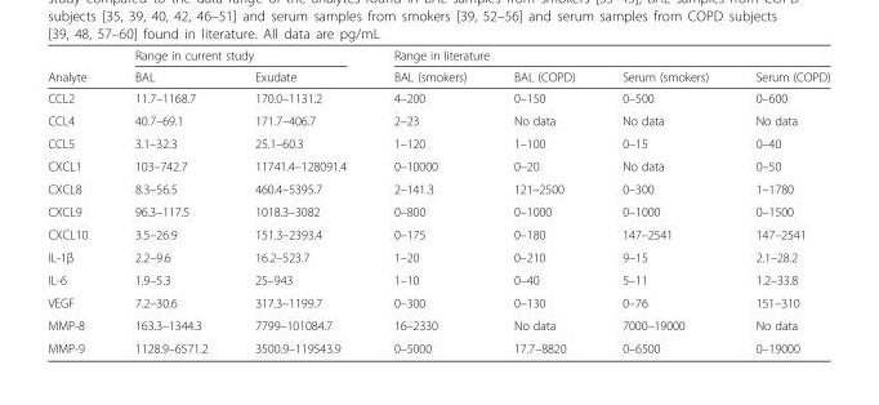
<table><thead><tr><td rowspan="2">Analyte</td><td colspan="2">Range in current study</td><td colspan="4">Range in literature</td></tr><tr><td>BAL</td><td>Exudate</td><td>BAL (smokers)</td><td>BAL (COPD)</td><td>Serum (smokers)</td><td>Serum (COPD)</td></tr></thead><tbody><tr><td>CCL2</td><td>11.7–1168.7</td><td>170.0–1131.2</td><td>4–200</td><td>0–150</td><td>0–500</td><td>0–600</td></tr><tr><td>CCL4</td><td>40.7–69.1</td><td>171.7–406.7</td><td>2–23</td><td>No data</td><td>No data</td><td>No data</td></tr><tr><td>CCL5</td><td>3.1–32.3</td><td>25.1–60.3</td><td>1–120</td><td>1–100</td><td>0–15</td><td>0–40</td></tr><tr><td>CXCL1</td><td>103–742.7</td><td>11741.4–128091.4</td><td>0–10000</td><td>0–20</td><td>No data</td><td>0–50</td></tr><tr><td>CXCL8</td><td>8.3–56.5</td><td>460.4–5395.7</td><td>2–141.3</td><td>121–2500</td><td>0–300</td><td>1–1780</td></tr><tr><td>CXCL9</td><td>96.3–117.5</td><td>1018.3–3082</td><td>0–800</td><td>0–1000</td><td>0–1000</td><td>0–1500</td></tr><tr><td>CXCL10</td><td>3.5–26.9</td><td>151.3–2393.4</td><td>0–175</td><td>0–180</td><td>147–2541</td><td>147–2541</td></tr><tr><td>IL-1β</td><td>2.2–9.6</td><td>16.2–523.7</td><td>1–20</td><td>0–210</td><td>9–15</td><td>2.1–28.2</td></tr><tr><td>IL-6</td><td>1.9–5.3</td><td>25–943</td><td>1–10</td><td>0–40</td><td>5–11</td><td>1.2–33.8</td></tr><tr><td>VEGF</td><td>7.2–30.6</td><td>317.3–1199.7</td><td>0–300</td><td>0–130</td><td>0–76</td><td>151–310</td></tr><tr><td>MMP-8</td><td>163.3–1344.3</td><td>7799–101084.7</td><td>16–2330</td><td>No data</td><td>7000–19000</td><td>No data</td></tr><tr><td>MMP-9</td><td>1128.9–6571.2</td><td>3500.9–119543.9</td><td>0–5000</td><td>17.7–8820</td><td>0–6500</td><td>0–19000</td></tr></tbody></table>